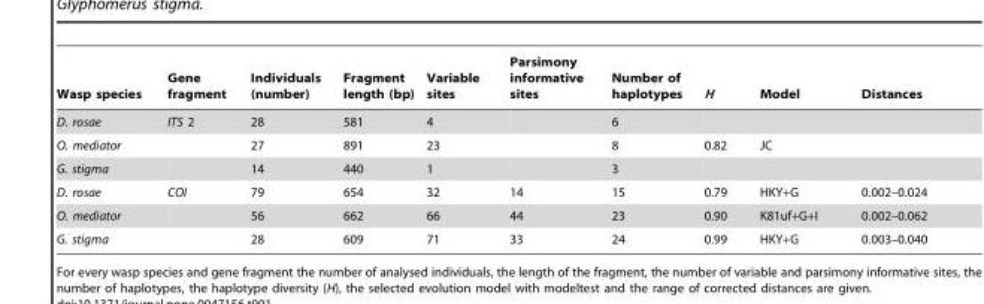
<table><thead><tr><td>Wasp species</td><td>Gene fragment</td><td>Individuals (number)</td><td>Fragment length (bp)</td><td>Variable sites</td><td>Parsimony informative sites</td><td>Number of haplotypes</td><td>H</td><td>Model</td><td>Distances</td></tr></thead><tbody><tr><td>D. rosae</td><td>ITS 2</td><td>28</td><td>581</td><td>4</td><td></td><td>6</td><td></td><td></td><td></td></tr><tr><td>O. mediator</td><td></td><td>27</td><td>891</td><td>23</td><td></td><td>8</td><td>0.82</td><td>JC</td><td></td></tr><tr><td>G. stigma</td><td></td><td>14</td><td>440</td><td>1</td><td></td><td>3</td><td></td><td></td><td></td></tr><tr><td>D. rosae</td><td>COI</td><td>79</td><td>654</td><td>32</td><td>14</td><td>15</td><td>0.79</td><td>HKY+G</td><td>0.002–0.024</td></tr><tr><td>O. mediator</td><td></td><td>56</td><td>662</td><td>66</td><td>44</td><td>23</td><td>0.90</td><td>K81uf+G+I</td><td>0.002–0.062</td></tr><tr><td>G. stigma</td><td></td><td>28</td><td>609</td><td>71</td><td>33</td><td>24</td><td>0.99</td><td>HKY+G</td><td>0.003–0.040</td></tr></tbody></table>